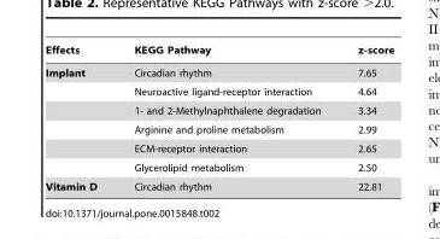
<table><thead><tr><td>Effects</td><td>KEGG Pathway</td><td>z-score</td></tr></thead><tbody><tr><td rowspan="6">Implant</td><td>Circadian rhythm</td><td>7.65</td></tr><tr><td>Neuroactive ligand-receptor interaction</td><td>4.64</td></tr><tr><td>1- and 2-Methylnaphthalene degradation</td><td>3.34</td></tr><tr><td>Arginine and proline metabolism</td><td>2.99</td></tr><tr><td>ECM-receptor interaction</td><td>2.65</td></tr><tr><td>Glycerolipid metabolism</td><td>2.50</td></tr><tr><td>Vitamin D</td><td>Circadian rhythm</td><td>22.81</td></tr></tbody></table>